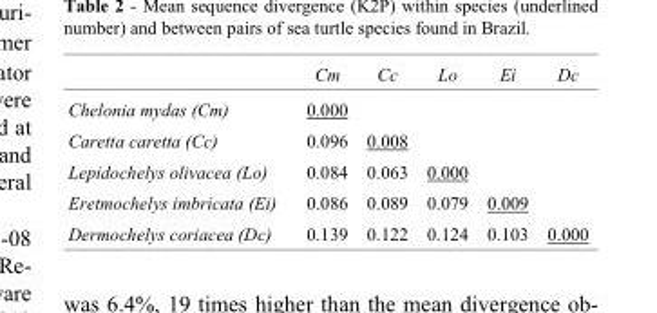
<table><thead><tr><td></td><td>Cm</td><td>Cc</td><td>Lo</td><td>Ei</td><td>Dc</td></tr></thead><tbody><tr><td>Chelonia mydas (Cm)</td><td>0.000</td><td></td><td></td><td></td><td></td></tr><tr><td>Caretta caretta (Cc)</td><td>0.096</td><td>0.008</td><td></td><td></td><td></td></tr><tr><td>Lepidochelys olivacea (Lo)</td><td>0.084</td><td>0.063</td><td>0.000</td><td></td><td></td></tr><tr><td>Eretmochelys imbricata (Ei)</td><td>0.086</td><td>0.089</td><td>0.079</td><td>0.009</td><td></td></tr><tr><td>Dermochelys coriacea (Dc)</td><td>0.139</td><td>0.122</td><td>0.124</td><td>0.103</td><td>0.000</td></tr></tbody></table>